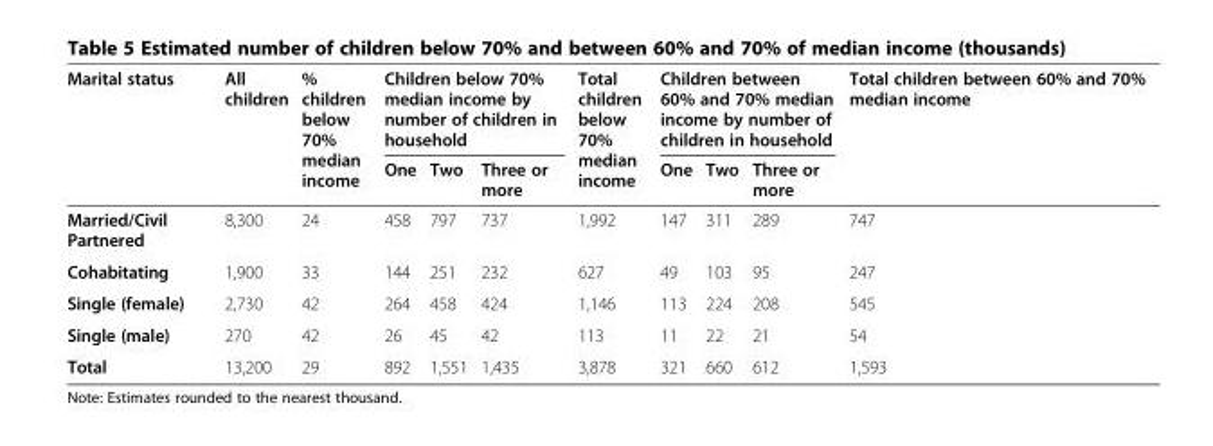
<table><thead><tr><td rowspan="2">Marital status</td><td rowspan="2">All children</td><td rowspan="2">% children below 70% median income</td><td colspan="3">Children below 70% median income by number of children in household</td><td rowspan="2">Total children below 70% median income</td><td colspan="3">Children between 60% and 70% median income by number of children in household</td><td rowspan="2">Total children between 60% and 70% median income</td></tr><tr><td>One</td><td>Two</td><td>Three or more</td><td>One</td><td>Two</td><td>Three or more</td></tr></thead><tbody><tr><td>Married/Civil Partnered</td><td>8,300</td><td>24</td><td>458</td><td>797</td><td>737</td><td>1,992</td><td>147</td><td>311</td><td>289</td><td>747</td></tr><tr><td>Cohabitating</td><td>1,900</td><td>33</td><td>144</td><td>251</td><td>232</td><td>627</td><td>49</td><td>103</td><td>95</td><td>247</td></tr><tr><td>Single (female)</td><td>2,730</td><td>42</td><td>264</td><td>458</td><td>424</td><td>1,146</td><td>113</td><td>224</td><td>208</td><td>545</td></tr><tr><td>Single (male)</td><td>270</td><td>42</td><td>26</td><td>45</td><td>42</td><td>113</td><td>11</td><td>22</td><td>21</td><td>54</td></tr><tr><td>Total</td><td>13,200</td><td>29</td><td>892</td><td>1,551</td><td>1,435</td><td>3,878</td><td>321</td><td>660</td><td>612</td><td>1,593</td></tr></tbody></table>